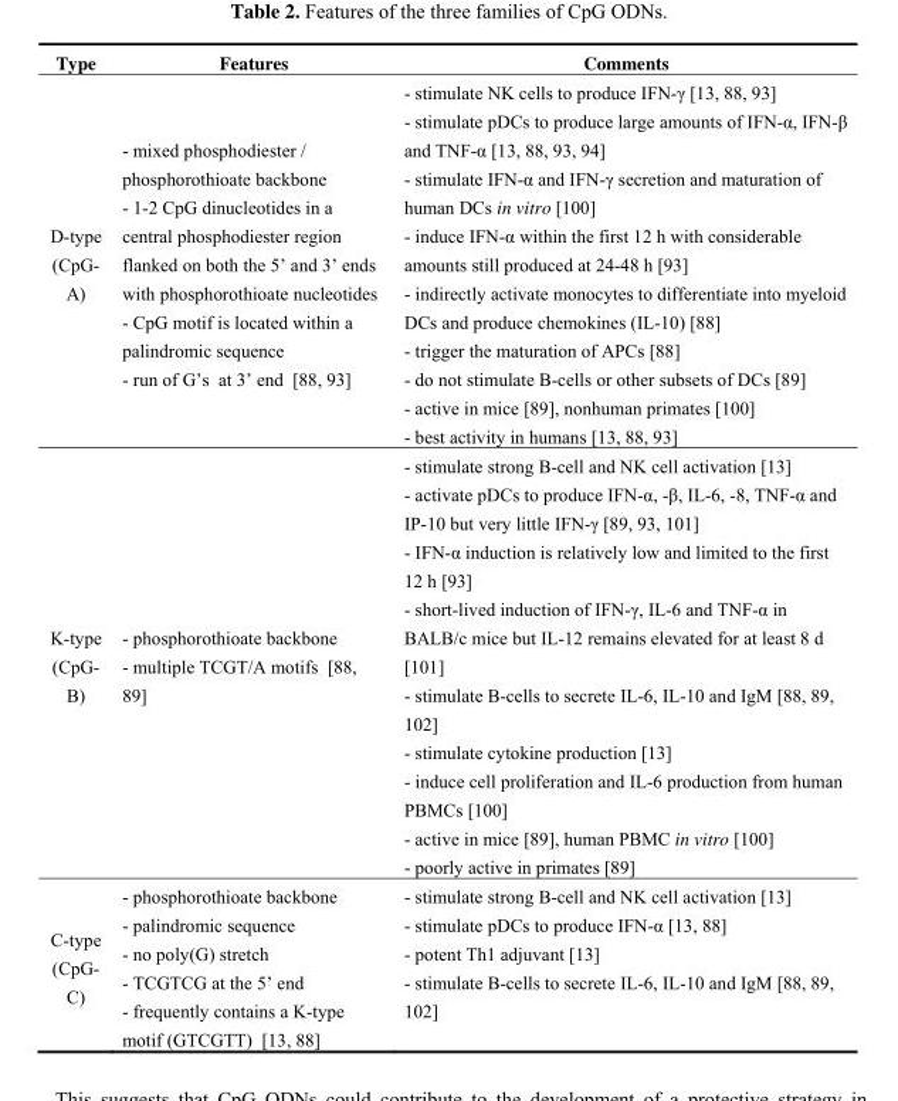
<table><thead><tr><td>Type</td><td>Features</td><td>Comments</td></tr></thead><tbody><tr><td>D-type (CpG- A)</td><td>- mixed phosphodiester / phosphorothioate backbone - 1-2 CpG dinucleotides in a central phosphodiester region flanked on both the 5’ and 3’ ends with phosphorothioate nucleotides - CpG motif is located within a palindromic sequence - run of G’s at 3’ end [88, 93]</td><td>- stimulate NK cells to produce IFN-γ [13, 88, 93] - stimulate pDCs to produce large amounts of IFN-α, IFN-β and TNF-α [13, 88, 93, 94] - stimulate IFN-α and IFN-γ secretion and maturation of human DCs in vitro [100] - induce IFN-α within the first 12 h with considerable amounts still produced at 24-48 h [93] - indirectly activate monocytes to differentiate into myeloid DCs and produce chemokines (IL-10) [88] - trigger the maturation of APCs [88] - do not stimulate B-cells or other subsets of DCs [89] - active in mice [89], nonhuman primates [100] - best activity in humans [13, 88, 93]</td></tr><tr><td>K-type (CpG- B)</td><td>- phosphorothioate backbone - multiple TCGT/A motifs [88, 89]</td><td>- stimulate strong B-cell and NK cell activation [13] - activate pDCs to produce IFN-α, -β, IL-6, -8, TNF-α and IP-10 but very little IFN-γ [89, 93, 101] - IFN-α induction is relatively low and limited to the first 12 h [93] - short-lived induction of IFN-γ, IL-6 and TNF-α in BALB/c mice but IL-12 remains elevated for at least 8 d [101] - stimulate B-cells to secrete IL-6, IL-10 and IgM [88, 89, 102] - stimulate cytokine production [13] - induce cell proliferation and IL-6 production from human PBMCs [100] - active in mice [89], human PBMC in vitro [100] - poorly active in primates [89]</td></tr><tr><td>C-type (CpG- C)</td><td>- phosphorothioate backbone - palindromic sequence - no poly(G) stretch - TCGTCG at the 5’ end - frequently contains a K-type motif (GTCGTT) [13, 88]</td><td>- stimulate strong B-cell and NK cell activation [13] - stimulate pDCs to produce IFN-α [13, 88] - potent Th1 adjuvant [13] - stimulate B-cells to secrete IL-6, IL-10 and IgM [88, 89, 102]</td></tr></tbody></table>